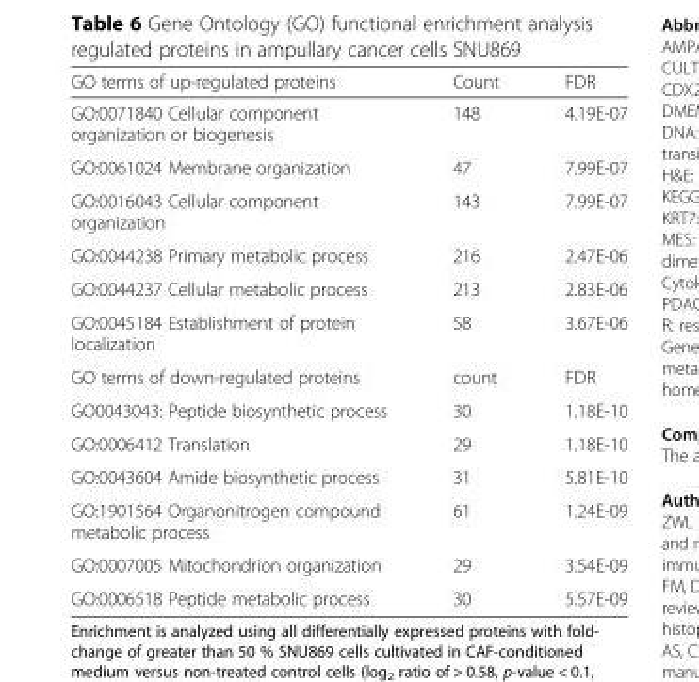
<table><thead><tr><td>GO terms of up-regulated proteins</td><td>Count</td><td>FDR</td></tr></thead><tbody><tr><td>GO:0071840 Cellular component organization or biogenesis</td><td>148</td><td>4.19E-07</td></tr><tr><td>GO:0061024 Membrane organization</td><td>47</td><td>7.99E-07</td></tr><tr><td>GO:0016043 Cellular component organization</td><td>143</td><td>7.99E-07</td></tr><tr><td>GO:0044238 Primary metabolic process</td><td>216</td><td>2.47E-06</td></tr><tr><td>GO:0044237 Cellular metabolic process</td><td>213</td><td>2.83E-06</td></tr><tr><td>GO:0045184 Establishment of protein localization</td><td>58</td><td>3.67E-06</td></tr><tr><td>GO terms of down-regulated proteins</td><td>count</td><td>FDR</td></tr><tr><td>GO0043043: Peptide biosynthetic process</td><td>30</td><td>1.18E-10</td></tr><tr><td>GO:0006412 Translation</td><td>29</td><td>1.18E-10</td></tr><tr><td>GO:0043604 Amide biosynthetic process</td><td>31</td><td>5.81E-10</td></tr><tr><td>GO:1901564 Organonitrogen compound metabolic process</td><td>61</td><td>1.24E-09</td></tr><tr><td>GO:0007005 Mitochondrion organization</td><td>29</td><td>3.54E-09</td></tr><tr><td>GO:0006518 Peptide metabolic process</td><td>30</td><td>5.57E-09</td></tr></tbody></table>